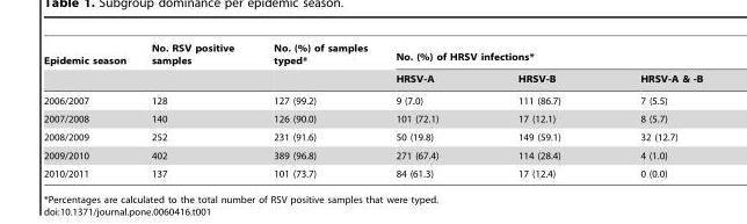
<table><thead><tr><td rowspan="2">Epidemic season</td><td rowspan="2">No. RSV positive samples</td><td rowspan="2">No. (%) of samples typed*</td><td colspan="3">No. (%) of HRSV infections*</td></tr><tr><td>HRSV-A</td><td>HRSV-B</td><td>HRSV-A &amp; -B</td></tr></thead><tbody><tr><td>2006/2007</td><td>128</td><td>127 (99.2)</td><td>9 (7.0)</td><td>111 (86.7)</td><td>7 (5.5)</td></tr><tr><td>2007/2008</td><td>140</td><td>126 (90.0)</td><td>101 (72.1)</td><td>17 (12.1)</td><td>8 (5.7)</td></tr><tr><td>2008/2009</td><td>252</td><td>231 (91.6)</td><td>50 (19.8)</td><td>149 (59.1)</td><td>32 (12.7)</td></tr><tr><td>2009/2010</td><td>402</td><td>389 (96.8)</td><td>271 (67.4)</td><td>114 (28.4)</td><td>4 (1.0)</td></tr><tr><td>2010/2011</td><td>137</td><td>101 (73.7)</td><td>84 (61.3)</td><td>17 (12.4)</td><td>0 (0.0)</td></tr></tbody></table>